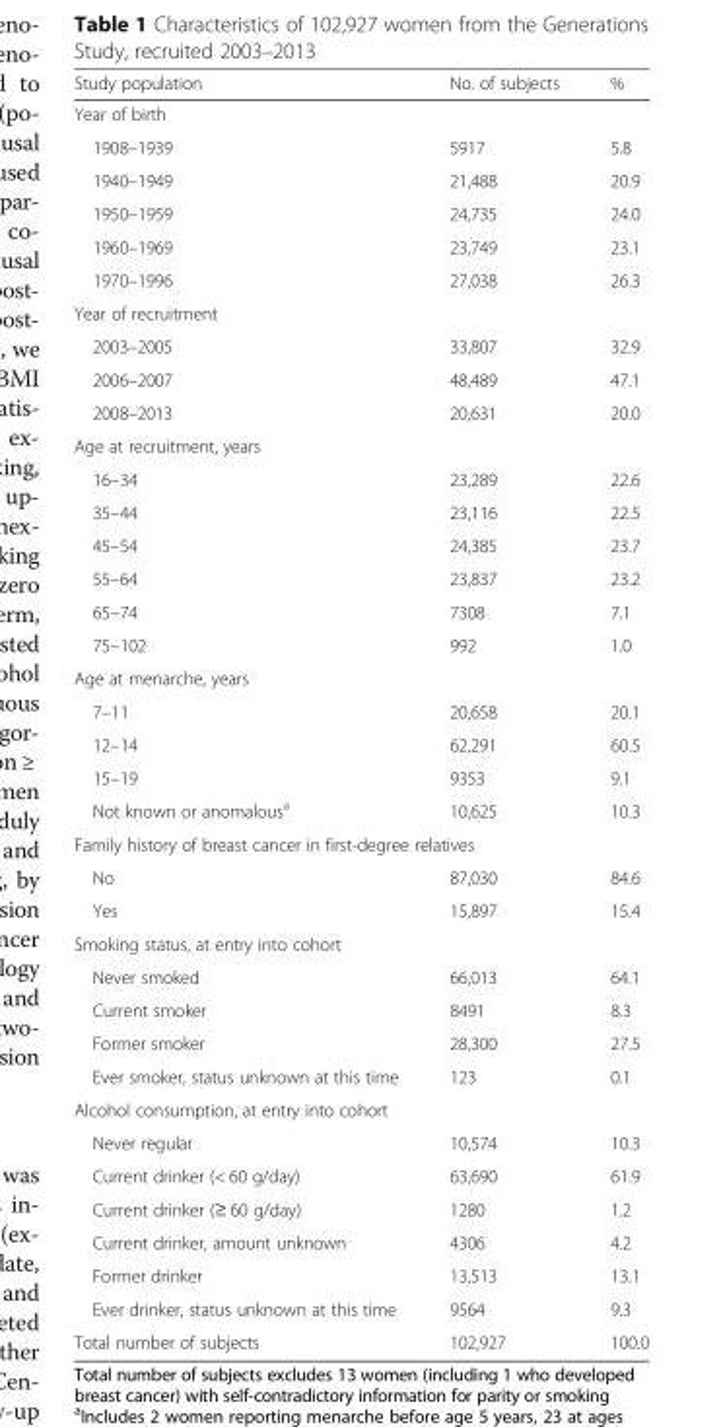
<table><thead><tr><td>Study population</td><td>No. of subjects</td><td>%</td></tr></thead><tbody><tr><td colspan="3">Year of birth</td></tr><tr><td>1908–1939</td><td>5917</td><td>5.8</td></tr><tr><td>1940–1949</td><td>21,488</td><td>20.9</td></tr><tr><td>1950–1959</td><td>24,735</td><td>24.0</td></tr><tr><td>1960–1969</td><td>23,749</td><td>23.1</td></tr><tr><td>1970–1996</td><td>27,038</td><td>26.3</td></tr><tr><td colspan="3">Year of recruitment</td></tr><tr><td>2003–2005</td><td>33,807</td><td>32.9</td></tr><tr><td>2006–2007</td><td>48,489</td><td>47.1</td></tr><tr><td>2008–2013</td><td>20,631</td><td>20.0</td></tr><tr><td colspan="3">Age at recruitment, years</td></tr><tr><td>16–34</td><td>23,289</td><td>22.6</td></tr><tr><td>35–44</td><td>23,116</td><td>22.5</td></tr><tr><td>45–54</td><td>24,385</td><td>23.7</td></tr><tr><td>55–64</td><td>23,837</td><td>23.2</td></tr><tr><td>65–74</td><td>7308</td><td>7.1</td></tr><tr><td>75–102</td><td>992</td><td>1.0</td></tr><tr><td colspan="3">Age at menarche, years</td></tr><tr><td>7–11</td><td>20,658</td><td>20.1</td></tr><tr><td>12–14</td><td>62,291</td><td>60.5</td></tr><tr><td>15–19</td><td>9353</td><td>9.1</td></tr><tr><td>Not known or anomalous<sup>a</sup></td><td>10,625</td><td>10.3</td></tr><tr><td colspan="3">Family history of breast cancer in first-degree relatives</td></tr><tr><td>No</td><td>87,030</td><td>84.6</td></tr><tr><td>Yes</td><td>15,897</td><td>15.4</td></tr><tr><td colspan="3">Smoking status, at entry into cohort</td></tr><tr><td>Never smoked</td><td>66,013</td><td>64.1</td></tr><tr><td>Current smoker</td><td>8491</td><td>8.3</td></tr><tr><td>Former smoker</td><td>28,300</td><td>27.5</td></tr><tr><td>Ever smoker, status unknown at this time</td><td>123</td><td>0.1</td></tr><tr><td colspan="3">Alcohol consumption, at entry into cohort</td></tr><tr><td>Never regular</td><td>10,574</td><td>10.3</td></tr><tr><td>Current drinker (&lt; 60 g/day)</td><td>63,690</td><td>61.9</td></tr><tr><td>Current drinker (≥ 60 g/day)</td><td>1280</td><td>1.2</td></tr><tr><td>Current drinker, amount unknown</td><td>4306</td><td>4.2</td></tr><tr><td>Former drinker</td><td>13,513</td><td>13.1</td></tr><tr><td>Ever drinker, status unknown at this time</td><td>9564</td><td>9.3</td></tr><tr><td>Total number of subjects</td><td>102,927</td><td>100.0</td></tr></tbody></table>